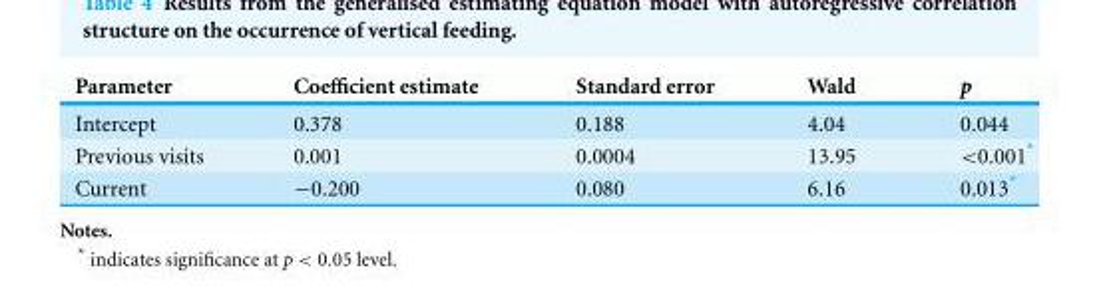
<table><thead><tr><td>Parameter</td><td>Coefficient estimate</td><td>Standard error</td><td>Wald</td><td>p</td></tr></thead><tbody><tr><td>Intercept</td><td>0.378</td><td>0.188</td><td>4.04</td><td>0.044</td></tr><tr><td>Previous visits</td><td>0.001</td><td>0.0004</td><td>13.95</td><td>&lt;0.001*</td></tr><tr><td>Current</td><td>−0.200</td><td>0.080</td><td>6.16</td><td>0.013*</td></tr></tbody></table>